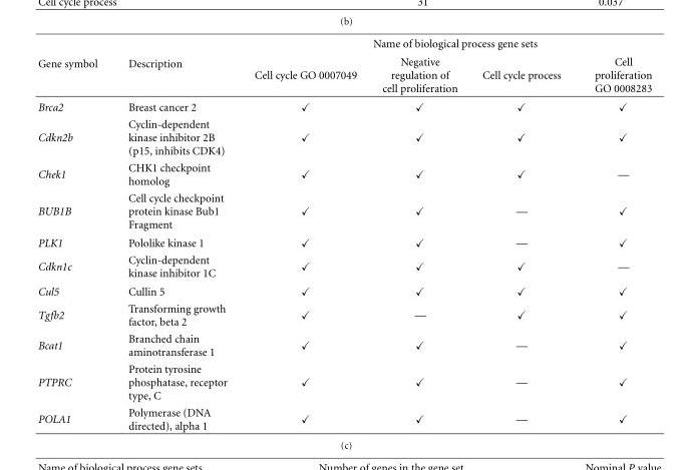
<table><thead><tr><td rowspan="2">Gene symbol</td><td rowspan="2">Description</td><td colspan="4">Name of biological process gene sets</td></tr><tr><td>Cell cycle GO 0007049</td><td>Negative regulation of cell proliferation</td><td>Cell cycle process</td><td>Cell proliferation GO 0008283</td></tr></thead><tbody><tr><td>Brca2</td><td>Breast cancer 2</td><td>✓</td><td>✓</td><td>✓</td><td>✓</td></tr><tr><td>Cdkn2b</td><td>Cyclin-dependent kinase inhibitor 2B (p15, inhibits CDK4)</td><td>✓</td><td>✓</td><td>✓</td><td>✓</td></tr><tr><td>Chek1</td><td>CHK1 checkpoint homolog</td><td>✓</td><td>✓</td><td>✓</td><td>—</td></tr><tr><td>BUB1B</td><td>Cell cycle checkpoint protein kinase Bub1 Fragment</td><td>✓</td><td>✓</td><td>—</td><td>✓</td></tr><tr><td>PLK1</td><td>Pololike kinase 1</td><td>✓</td><td>✓</td><td>—</td><td>✓</td></tr><tr><td>Cdkn1c</td><td>Cyclin-dependent kinase inhibitor 1C</td><td>✓</td><td>✓</td><td>✓</td><td>—</td></tr><tr><td>Cul5</td><td>Cullin 5</td><td>✓</td><td>✓</td><td>✓</td><td>✓</td></tr><tr><td>Tgfb2</td><td>Transforming growth factor, beta 2</td><td>✓</td><td>—</td><td>✓</td><td>✓</td></tr><tr><td>Bcat1</td><td>Branched chain aminotransferase 1</td><td>✓</td><td>✓</td><td>—</td><td>✓</td></tr><tr><td>PTPRC</td><td>Protein tyrosine phosphatase, receptor type, C</td><td>✓</td><td>✓</td><td>—</td><td>✓</td></tr><tr><td>POLA1</td><td>Polymerase (DNA directed), alpha 1</td><td>✓</td><td>✓</td><td>—</td><td>✓</td></tr></tbody></table>